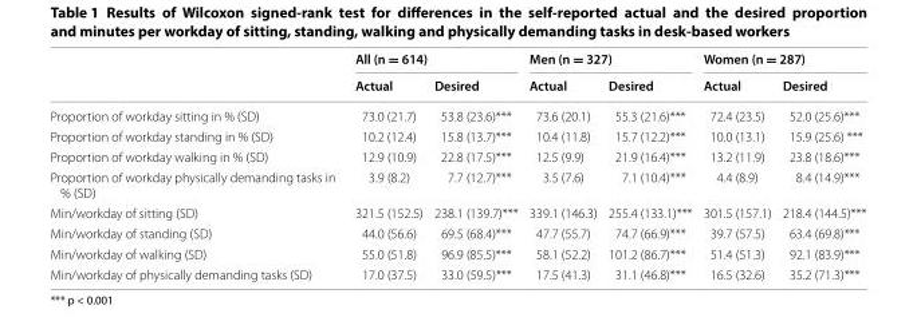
<table><thead><tr><td rowspan="2"></td><td colspan="2">All (n = 614)</td><td colspan="2">Men (n = 327)</td><td colspan="2">Women (n = 287)</td></tr><tr><td>Actual</td><td>Desired</td><td>Actual</td><td>Desired</td><td>Actual</td><td>Desired</td></tr></thead><tbody><tr><td>Proportion of workday sitting in % (SD)</td><td>73.0 (21.7)</td><td>53.8 (23.6)***</td><td>73.6 (20.1)</td><td>55.3 (21.6)***</td><td>72.4 (23.5)</td><td>52.0 (25.6)***</td></tr><tr><td>Proportion of workday standing in % (SD)</td><td>10.2 (12.4)</td><td>15.8 (13.7)***</td><td>10.4 (11.8)</td><td>15.7 (12.2)***</td><td>10.0 (13.1)</td><td>15.9 (25.6) ***</td></tr><tr><td>Proportion of workday walking in % (SD)</td><td>12.9 (10.9)</td><td>22.8 (17.5)***</td><td>12.5 (9.9)</td><td>21.9 (16.4)***</td><td>13.2 (11.9)</td><td>23.8 (18.6)***</td></tr><tr><td>Proportion of workday physically demanding tasks in % (SD)</td><td>3.9 (8.2)</td><td>7.7 (12.7)***</td><td>3.5 (7.6)</td><td>7.1 (10.4)***</td><td>4.4 (8.9)</td><td>8.4 (14.9)***</td></tr><tr><td>Min/workday of sitting (SD)</td><td>321.5 (152.5)</td><td>238.1 (139.7)***</td><td>339.1 (146.3)</td><td>255.4 (133.1)***</td><td>301.5 (157.1)</td><td>218.4 (144.5)***</td></tr><tr><td>Min/workday of standing (SD)</td><td>44.0 (56.6)</td><td>69.5 (68.4)***</td><td>47.7 (55.7)</td><td>74.7 (66.9)***</td><td>39.7 (57.5)</td><td>63.4 (69.8)***</td></tr><tr><td>Min/workday of walking (SD)</td><td>55.0 (51.8)</td><td>96.9 (85.5)***</td><td>58.1 (52.2)</td><td>101.2 (86.7)***</td><td>51.4 (51.3)</td><td>92.1 (83.9)***</td></tr><tr><td>Min/workday of physically demanding tasks (SD)</td><td>17.0 (37.5)</td><td>33.0 (59.5)***</td><td>17.5 (41.3)</td><td>31.1 (46.8)***</td><td>16.5 (32.6)</td><td>35.2 (71.3)***</td></tr></tbody></table>